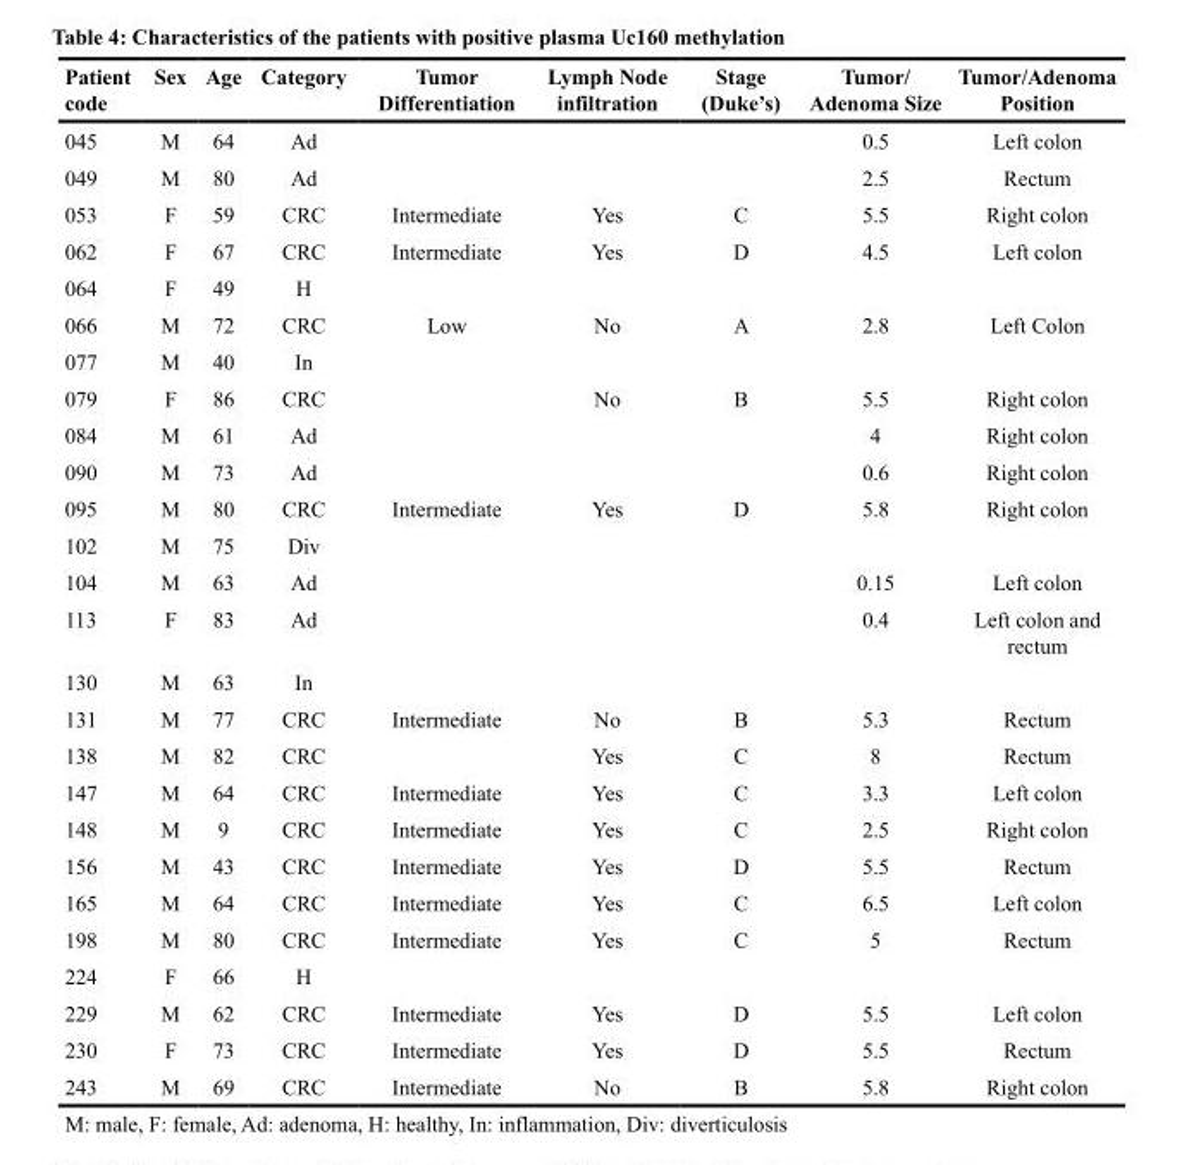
<table><thead><tr><td>Patient code</td><td>Sex</td><td>Age</td><td>Category</td><td>Tumor Differentiation</td><td>Lymph Node infiltration</td><td>Stage (Duke’s)</td><td>Tumor/ Adenoma Size</td><td>Tumor/Adenoma Position</td></tr></thead><tbody><tr><td>045</td><td>M</td><td>64</td><td>Ad</td><td></td><td></td><td></td><td>0.5</td><td>Left colon</td></tr><tr><td>049</td><td>M</td><td>80</td><td>Ad</td><td></td><td></td><td></td><td>2.5</td><td>Rectum</td></tr><tr><td>053</td><td>F</td><td>59</td><td>CRC</td><td>Intermediate</td><td>Yes</td><td>C</td><td>5.5</td><td>Right colon</td></tr><tr><td>062</td><td>F</td><td>67</td><td>CRC</td><td>Intermediate</td><td>Yes</td><td>D</td><td>4.5</td><td>Left colon</td></tr><tr><td>064</td><td>F</td><td>49</td><td>H</td><td></td><td></td><td></td><td></td><td></td></tr><tr><td>066</td><td>M</td><td>72</td><td>CRC</td><td>Low</td><td>No</td><td>A</td><td>2.8</td><td>Left Colon</td></tr><tr><td>077</td><td>M</td><td>40</td><td>In</td><td></td><td></td><td></td><td></td><td></td></tr><tr><td>079</td><td>F</td><td>86</td><td>CRC</td><td></td><td>No</td><td>B</td><td>5.5</td><td>Right colon</td></tr><tr><td>084</td><td>M</td><td>61</td><td>Ad</td><td></td><td></td><td></td><td>4</td><td>Right colon</td></tr><tr><td>090</td><td>M</td><td>73</td><td>Ad</td><td></td><td></td><td></td><td>0.6</td><td>Right colon</td></tr><tr><td>095</td><td>M</td><td>80</td><td>CRC</td><td>Intermediate</td><td>Yes</td><td>D</td><td>5.8</td><td>Right colon</td></tr><tr><td>102</td><td>M</td><td>75</td><td>Div</td><td></td><td></td><td></td><td></td><td></td></tr><tr><td>104</td><td>M</td><td>63</td><td>Ad</td><td></td><td></td><td></td><td>0.15</td><td>Left colon</td></tr><tr><td>113</td><td>F</td><td>83</td><td>Ad</td><td></td><td></td><td></td><td>0.4</td><td>Left colon and rectum</td></tr><tr><td>130</td><td>M</td><td>63</td><td>In</td><td></td><td></td><td></td><td></td><td></td></tr><tr><td>131</td><td>M</td><td>77</td><td>CRC</td><td>Intermediate</td><td>No</td><td>B</td><td>5.3</td><td>Rectum</td></tr><tr><td>138</td><td>M</td><td>82</td><td>CRC</td><td></td><td>Yes</td><td>C</td><td>8</td><td>Rectum</td></tr><tr><td>147</td><td>M</td><td>64</td><td>CRC</td><td>Intermediate</td><td>Yes</td><td>C</td><td>3.3</td><td>Left colon</td></tr><tr><td>148</td><td>M</td><td>9</td><td>CRC</td><td>Intermediate</td><td>Yes</td><td>C</td><td>2.5</td><td>Right colon</td></tr><tr><td>156</td><td>M</td><td>43</td><td>CRC</td><td>Intermediate</td><td>Yes</td><td>D</td><td>5.5</td><td>Rectum</td></tr><tr><td>165</td><td>M</td><td>64</td><td>CRC</td><td>Intermediate</td><td>Yes</td><td>C</td><td>6.5</td><td>Left colon</td></tr><tr><td>198</td><td>M</td><td>80</td><td>CRC</td><td>Intermediate</td><td>Yes</td><td>C</td><td>5</td><td>Rectum</td></tr><tr><td>224</td><td>F</td><td>66</td><td>H</td><td></td><td></td><td></td><td></td><td></td></tr><tr><td>229</td><td>M</td><td>62</td><td>CRC</td><td>Intermediate</td><td>Yes</td><td>D</td><td>5.5</td><td>Left colon</td></tr><tr><td>230</td><td>F</td><td>73</td><td>CRC</td><td>Intermediate</td><td>Yes</td><td>D</td><td>5.5</td><td>Rectum</td></tr><tr><td>243</td><td>M</td><td>69</td><td>CRC</td><td>Intermediate</td><td>No</td><td>B</td><td>5.8</td><td>Right colon</td></tr></tbody></table>